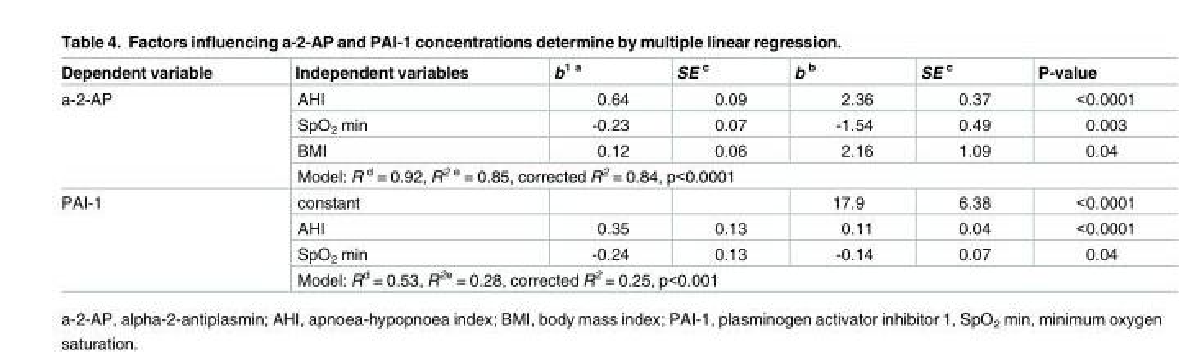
<table><thead><tr><td>Dependent variable</td><td>Independent variables</td><td>b<sup>1 a</sup></td><td>SE <sup>c</sup></td><td>b <sup>b</sup></td><td>SE <sup>c</sup></td><td>P-value</td></tr></thead><tbody><tr><td rowspan="4">a-2-AP</td><td>AHI</td><td>0.64</td><td>0.09</td><td>2.36</td><td>0.37</td><td>&lt;0.0001</td></tr><tr><td>SpO<sub>2</sub> min</td><td>-0.23</td><td>0.07</td><td>-1.54</td><td>0.49</td><td>0.003</td></tr><tr><td>BMI</td><td>0.12</td><td>0.06</td><td>2.16</td><td>1.09</td><td>0.04</td></tr><tr><td colspan="6">Model: R <sup>d</sup> = 0.92, R<sup>2 e</sup> = 0.85, corrected R<sup>2</sup> = 0.84, p&lt;0.0001</td></tr><tr><td rowspan="4">PAI-1</td><td>constant</td><td></td><td></td><td>17.9</td><td>6.38</td><td>&lt;0.0001</td></tr><tr><td>AHI</td><td>0.35</td><td>0.13</td><td>0.11</td><td>0.04</td><td>&lt;0.0001</td></tr><tr><td>SpO<sub>2</sub> min</td><td>-0.24</td><td>0.13</td><td>-0.14</td><td>0.07</td><td>0.04</td></tr><tr><td colspan="6">Model: R<sup>d</sup> = 0.53, R<sup>2e</sup> = 0.28, corrected R<sup>2</sup> = 0.25, p&lt;0.001</td></tr></tbody></table>